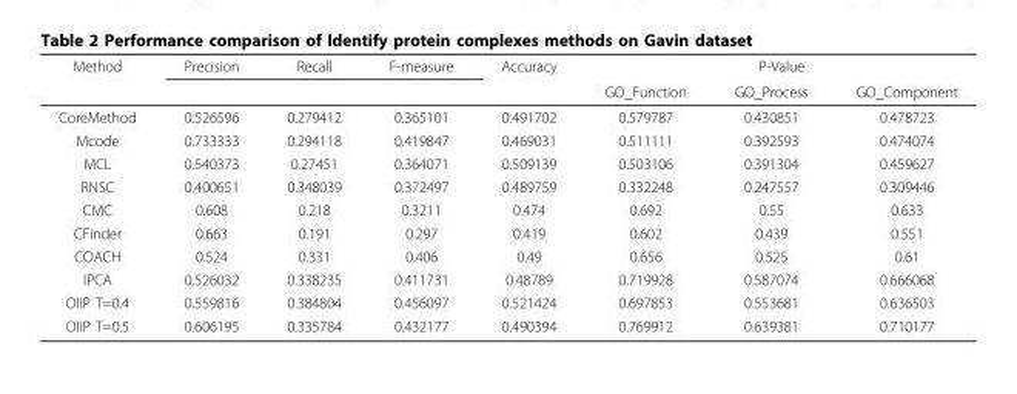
<table><thead><tr><td rowspan="2">Method</td><td rowspan="2">Precision</td><td rowspan="2">Recall</td><td rowspan="2">F-measure</td><td rowspan="2">Accuracy</td><td colspan="3">P-Value</td></tr><tr><td>GO_Function</td><td>GO_Process</td><td>GO_Component</td></tr></thead><tbody><tr><td>CoreMethod</td><td>0.526596</td><td>0.279412</td><td>0.365101</td><td>0.491702</td><td>0.579787</td><td>0.430851</td><td>0.478723</td></tr><tr><td>Mcode</td><td>0.733333</td><td>0.294118</td><td>0.419847</td><td>0.469031</td><td>0.511111</td><td>0.392593</td><td>0.474074</td></tr><tr><td>MCL</td><td>0.540373</td><td>0.27451</td><td>0.364071</td><td>0.509139</td><td>0.503106</td><td>0.391304</td><td>0.459627</td></tr><tr><td>RNSC</td><td>0.400651</td><td>0.348039</td><td>0.372497</td><td>0.489759</td><td>0.332248</td><td>0.247557</td><td>0.309446</td></tr><tr><td>CMC</td><td>0.608</td><td>0.218</td><td>0.3211</td><td>0.474</td><td>0.692</td><td>0.55</td><td>0.633</td></tr><tr><td>CFinder</td><td>0.663</td><td>0.191</td><td>0.297</td><td>0.419</td><td>0.602</td><td>0.439</td><td>0.551</td></tr><tr><td>COACH</td><td>0.524</td><td>0.331</td><td>0.406</td><td>0.49</td><td>0.656</td><td>0.525</td><td>0.61</td></tr><tr><td>IPCA</td><td>0.526032</td><td>0.338235</td><td>0.411731</td><td>0.48789</td><td>0.719928</td><td>0.587074</td><td>0.666068</td></tr><tr><td>OIIP T=0.4</td><td>0.559816</td><td>0.384804</td><td>0.456097</td><td>0.521424</td><td>0.697853</td><td>0.553681</td><td>0.636503</td></tr><tr><td>OIIP T=0.5</td><td>0.606195</td><td>0.335784</td><td>0.432177</td><td>0.490394</td><td>0.769912</td><td>0.639381</td><td>0.710177</td></tr></tbody></table>